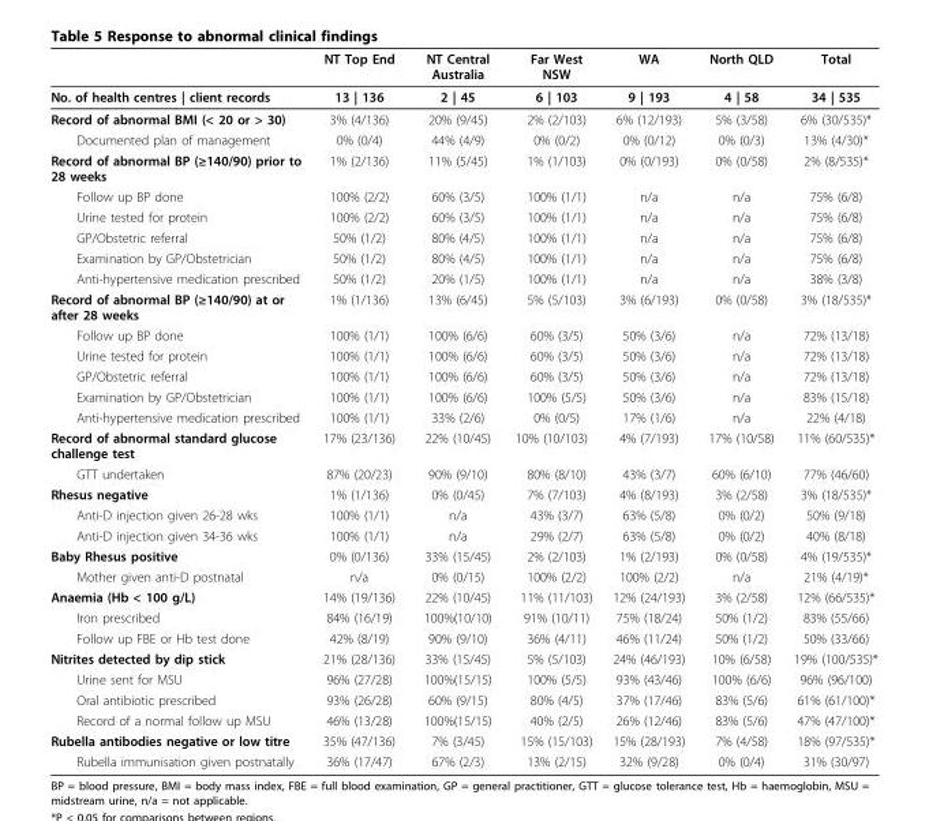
<table><thead><tr><td></td><td>NT Top End</td><td>NT Central Australia</td><td>Far West NSW</td><td>WA</td><td>North QLD</td><td>Total</td></tr></thead><tbody><tr><td>No. of health centres | client records</td><td>13 | 136</td><td>2 | 45</td><td>6 | 103</td><td>9 | 193</td><td>4 | 58</td><td>34 | 535</td></tr><tr><td>Record of abnormal BMI (&lt; 20 or &gt; 30)</td><td>3% (4/136)</td><td>20% (9/45)</td><td>2% (2/103)</td><td>6% (12/193)</td><td>5% (3/58)</td><td>6% (30/535)*</td></tr><tr><td>Documented plan of management</td><td>0% (0/4)</td><td>44% (4/9)</td><td>0% (0/2)</td><td>0% (0/12)</td><td>0% (0/3)</td><td>13% (4/30)*</td></tr><tr><td>Record of abnormal BP (≥140/90) prior to 28 weeks</td><td>1% (2/136)</td><td>11% (5/45)</td><td>1% (1/103)</td><td>0% (0/193)</td><td>0% (0/58)</td><td>2% (8/535)*</td></tr><tr><td>Follow up BP done</td><td>100% (2/2)</td><td>60% (3/5)</td><td>100% (1/1)</td><td>n/a</td><td>n/a</td><td>75% (6/8)</td></tr><tr><td>Urine tested for protein</td><td>100% (2/2)</td><td>60% (3/5)</td><td>100% (1/1)</td><td>n/a</td><td>n/a</td><td>75% (6/8)</td></tr><tr><td>GP/Obstetric referral</td><td>50% (1/2)</td><td>80% (4/5)</td><td>100% (1/1)</td><td>n/a</td><td>n/a</td><td>75% (6/8)</td></tr><tr><td>Examination by GP/Obstetrician</td><td>50% (1/2)</td><td>80% (4/5)</td><td>100% (1/1)</td><td>n/a</td><td>n/a</td><td>75% (6/8)</td></tr><tr><td>Anti-hypertensive medication prescribed</td><td>50% (1/2)</td><td>20% (1/5)</td><td>100% (1/1)</td><td>n/a</td><td>n/a</td><td>38% (3/8)</td></tr><tr><td>Record of abnormal BP (≥140/90) at or after 28 weeks</td><td>1% (1/136)</td><td>13% (6/45)</td><td>5% (5/103)</td><td>3% (6/193)</td><td>0% (0/58)</td><td>3% (18/535)*</td></tr><tr><td>Follow up BP done</td><td>100% (1/1)</td><td>100% (6/6)</td><td>60% (3/5)</td><td>50% (3/6)</td><td>n/a</td><td>72% (13/18)</td></tr><tr><td>Urine tested for protein</td><td>100% (1/1)</td><td>100% (6/6)</td><td>60% (3/5)</td><td>50% (3/6)</td><td>n/a</td><td>72% (13/18)</td></tr><tr><td>GP/Obstetric referral</td><td>100% (1/1)</td><td>100% (6/6)</td><td>60% (3/5)</td><td>50% (3/6)</td><td>n/a</td><td>72% (13/18)</td></tr><tr><td>Examination by GP/Obstetrician</td><td>100% (1/1)</td><td>100% (6/6)</td><td>100% (5/5)</td><td>50% (3/6)</td><td>n/a</td><td>83% (15/18)</td></tr><tr><td>Anti-hypertensive medication prescribed</td><td>100% (1/1)</td><td>33% (2/6)</td><td>0% (0/5)</td><td>17% (1/6)</td><td>n/a</td><td>22% (4/18)</td></tr><tr><td>Record of abnormal standard glucose challenge test</td><td>17% (23/136)</td><td>22% (10/45)</td><td>10% (10/103)</td><td>4% (7/193)</td><td>17% (10/58)</td><td>11% (60/535)*</td></tr><tr><td>GTT undertaken</td><td>87% (20/23)</td><td>90% (9/10)</td><td>80% (8/10)</td><td>43% (3/7)</td><td>60% (6/10)</td><td>77% (46/60)</td></tr><tr><td>Rhesus negative</td><td>1% (1/136)</td><td>0% (0/45)</td><td>7% (7/103)</td><td>4% (8/193)</td><td>3% (2/58)</td><td>3% (18/535)*</td></tr><tr><td>Anti-D injection given 26-28 wks</td><td>100% (1/1)</td><td>n/a</td><td>43% (3/7)</td><td>63% (5/8)</td><td>0% (0/2)</td><td>50% (9/18)</td></tr><tr><td>Anti-D injection given 34-36 wks</td><td>100% (1/1)</td><td>n/a</td><td>29% (2/7)</td><td>63% (5/8)</td><td>0% (0/2)</td><td>40% (8/18)</td></tr><tr><td>Baby Rhesus positive</td><td>0% (0/136)</td><td>33% (15/45)</td><td>2% (2/103)</td><td>1% (2/193)</td><td>0% (0/58)</td><td>4% (19/535)*</td></tr><tr><td>Mother given anti-D postnatal</td><td>n/a</td><td>0% (0/15)</td><td>100% (2/2)</td><td>100% (2/2)</td><td>n/a</td><td>21% (4/19)*</td></tr><tr><td>Anaemia (Hb &lt; 100 g/L)</td><td>14% (19/136)</td><td>22% (10/45)</td><td>11% (11/103)</td><td>12% (24/193)</td><td>3% (2/58)</td><td>12% (66/535)*</td></tr><tr><td>Iron prescribed</td><td>84% (16/19)</td><td>100%(10/10)</td><td>91% (10/11)</td><td>75% (18/24)</td><td>50% (1/2)</td><td>83% (55/66)</td></tr><tr><td>Follow up FBE or Hb test done</td><td>42% (8/19)</td><td>90% (9/10)</td><td>36% (4/11)</td><td>46% (11/24)</td><td>50% (1/2)</td><td>50% (33/66)</td></tr><tr><td>Nitrites detected by dip stick</td><td>21% (28/136)</td><td>33% (15/45)</td><td>5% (5/103)</td><td>24% (46/193)</td><td>10% (6/58)</td><td>19% (100/535)*</td></tr><tr><td>Urine sent for MSU</td><td>96% (27/28)</td><td>100%(15/15)</td><td>100% (5/5)</td><td>93% (43/46)</td><td>100% (6/6)</td><td>96% (96/100)</td></tr><tr><td>Oral antibiotic prescribed</td><td>93% (26/28)</td><td>60% (9/15)</td><td>80% (4/5)</td><td>37% (17/46)</td><td>83% (5/6)</td><td>61% (61/100)*</td></tr><tr><td>Record of a normal follow up MSU</td><td>46% (13/28)</td><td>100%(15/15)</td><td>40% (2/5)</td><td>26% (12/46)</td><td>83% (5/6)</td><td>47% (47/100)*</td></tr><tr><td>Rubella antibodies negative or low titre</td><td>35% (47/136)</td><td>7% (3/45)</td><td>15% (15/103)</td><td>15% (28/193)</td><td>7% (4/58)</td><td>18% (97/535)*</td></tr><tr><td>Rubella immunisation given postnatally</td><td>36% (17/47)</td><td>67% (2/3)</td><td>13% (2/15)</td><td>32% (9/28)</td><td>0% (0/4)</td><td>31% (30/97)</td></tr></tbody></table>